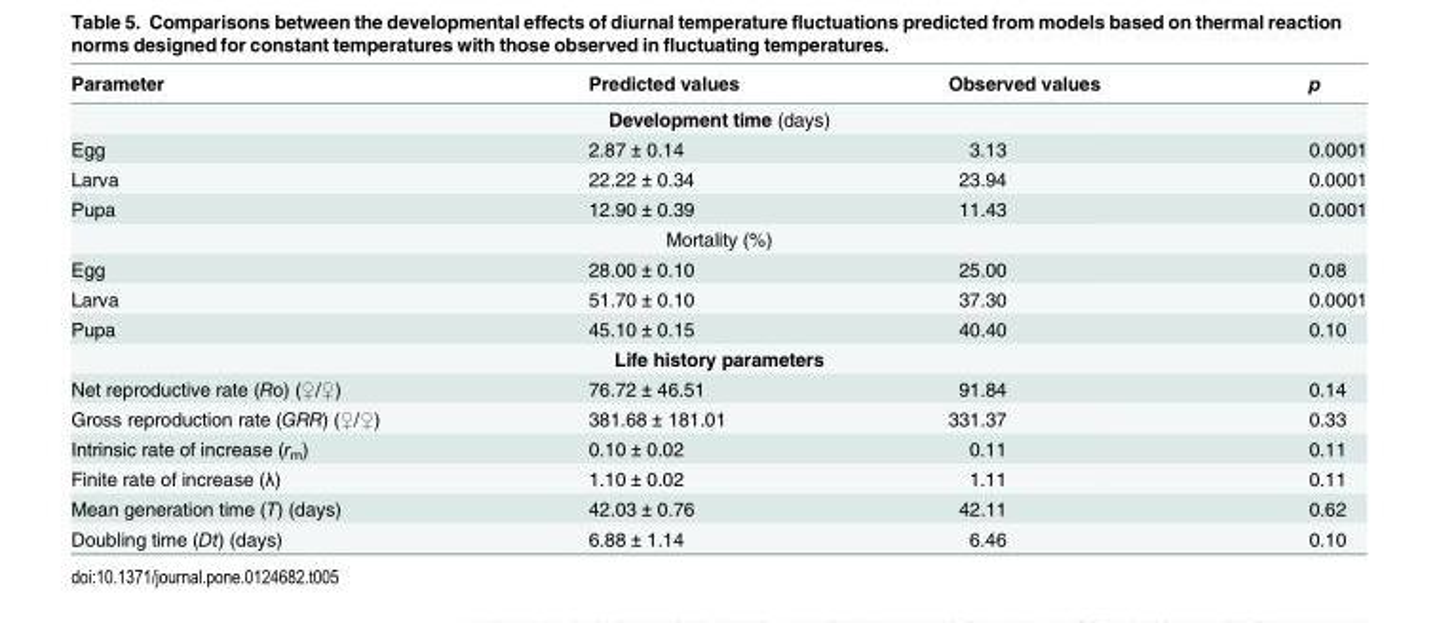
<table><thead><tr><td>Parameter</td><td>Predicted values</td><td>Observed values</td><td>p</td></tr></thead><tbody><tr><td colspan="4">Development time (days)</td></tr><tr><td>Egg</td><td>2.87 ± 0.14</td><td>3.13</td><td>0.0001</td></tr><tr><td>Larva</td><td>22.22 ± 0.34</td><td>23.94</td><td>0.0001</td></tr><tr><td>Pupa</td><td>12.90 ± 0.39</td><td>11.43</td><td>0.0001</td></tr><tr><td colspan="4">Mortality (%)</td></tr><tr><td>Egg</td><td>28.00 ± 0.10</td><td>25.00</td><td>0.08</td></tr><tr><td>Larva</td><td>51.70 ± 0.10</td><td>37.30</td><td>0.0001</td></tr><tr><td>Pupa</td><td>45.10 ± 0.15</td><td>40.40</td><td>0.10</td></tr><tr><td colspan="4">Life history parameters</td></tr><tr><td>Net reproductive rate (Ro) (♀/♀)</td><td>76.72 ± 46.51</td><td>91.84</td><td>0.14</td></tr><tr><td>Gross reproduction rate (GRR) (♀/♀)</td><td>381.68 ± 181.01</td><td>331.37</td><td>0.33</td></tr><tr><td>Intrinsic rate of increase (r<sub>m</sub>)</td><td>0.10 ± 0.02</td><td>0.11</td><td>0.11</td></tr><tr><td>Finite rate of increase (λ)</td><td>1.10 ± 0.02</td><td>1.11</td><td>0.11</td></tr><tr><td>Mean generation time (T) (days)</td><td>42.03 ± 0.76</td><td>42.11</td><td>0.62</td></tr><tr><td>Doubling time (Dt) (days)</td><td>6.88 ± 1.14</td><td>6.46</td><td>0.10</td></tr></tbody></table>